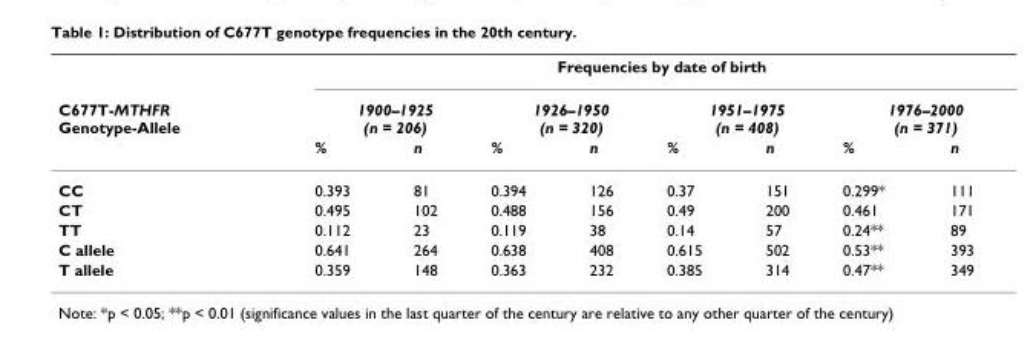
<table><thead><tr><td rowspan="3">C677T-MTHFR Genotype-Allele</td><td colspan="8">Frequencies by date of birth</td></tr><tr><td colspan="2">1900–1925 (n = 206)</td><td colspan="2">1926–1950 (n = 320)</td><td colspan="2">1951–1975 (n = 408)</td><td colspan="2">1976–2000 (n = 371)</td></tr><tr><td>%</td><td>n</td><td>%</td><td>n</td><td>%</td><td>n</td><td>%</td><td>n</td></tr></thead><tbody><tr><td>CC</td><td>0.393</td><td>81</td><td>0.394</td><td>126</td><td>0.37</td><td>151</td><td>0.299*</td><td>111</td></tr><tr><td>CT</td><td>0.495</td><td>102</td><td>0.488</td><td>156</td><td>0.49</td><td>200</td><td>0.461</td><td>171</td></tr><tr><td>TT</td><td>0.112</td><td>23</td><td>0.119</td><td>38</td><td>0.14</td><td>57</td><td>0.24**</td><td>89</td></tr><tr><td>C allele</td><td>0.641</td><td>264</td><td>0.638</td><td>408</td><td>0.615</td><td>502</td><td>0.53**</td><td>393</td></tr><tr><td>T allele</td><td>0.359</td><td>148</td><td>0.363</td><td>232</td><td>0.385</td><td>314</td><td>0.47**</td><td>349</td></tr></tbody></table>